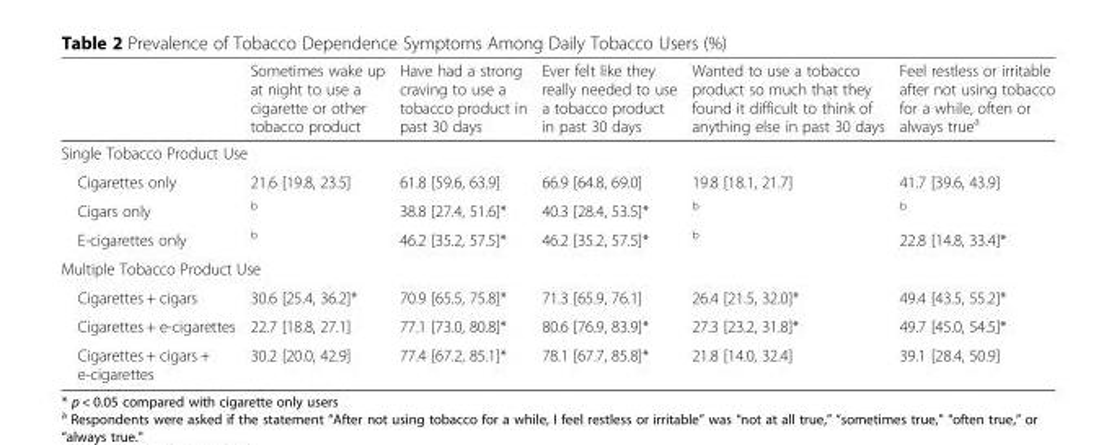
<table><thead><tr><td></td><td>Sometimes wake up at night to use a cigarette or other tobacco product</td><td>Have had a strong craving to use a tobacco product in past 30 days</td><td>Ever felt like they really needed to use a tobacco product in past 30 days</td><td>Wanted to use a tobacco product so much that they found it difficult to think of anything else in past 30 days</td><td>Feel restless or irritable after not using tobacco for a while, often or always true<sup>a</sup></td></tr></thead><tbody><tr><td colspan="6">Single Tobacco Product Use</td></tr><tr><td>Cigarettes only</td><td>21.6 [19.8, 23.5]</td><td>61.8 [59.6, 63.9]</td><td>66.9 [64.8, 69.0]</td><td>19.8 [18.1, 21.7]</td><td>41.7 [39.6, 43.9]</td></tr><tr><td>Cigars only</td><td><sup>b</sup></td><td>38.8 [27.4, 51.6]*</td><td>40.3 [28.4, 53.5]*</td><td><sup>b</sup></td><td><sup>b</sup></td></tr><tr><td>E-cigarettes only</td><td><sup>b</sup></td><td>46.2 [35.2, 57.5]*</td><td>46.2 [35.2, 57.5]*</td><td><sup>b</sup></td><td>22.8 [14.8, 33.4]*</td></tr><tr><td colspan="6">Multiple Tobacco Product Use</td></tr><tr><td>Cigarettes + cigars</td><td>30.6 [25.4, 36.2]*</td><td>70.9 [65.5, 75.8]*</td><td>71.3 [65.9, 76.1]</td><td>26.4 [21.5, 32.0]*</td><td>49.4 [43.5, 55.2]*</td></tr><tr><td>Cigarettes + e-cigarettes</td><td>22.7 [18.8, 27.1]</td><td>77.1 [73.0, 80.8]*</td><td>80.6 [76.9, 83.9]*</td><td>27.3 [23.2, 31.8]*</td><td>49.7 [45.0, 54.5]*</td></tr><tr><td>Cigarettes + cigars + e-cigarettes</td><td>30.2 [20.0, 42.9]</td><td>77.4 [67.2, 85.1]*</td><td>78.1 [67.7, 85.8]*</td><td>21.8 [14.0, 32.4]</td><td>39.1 [28.4, 50.9]</td></tr></tbody></table>